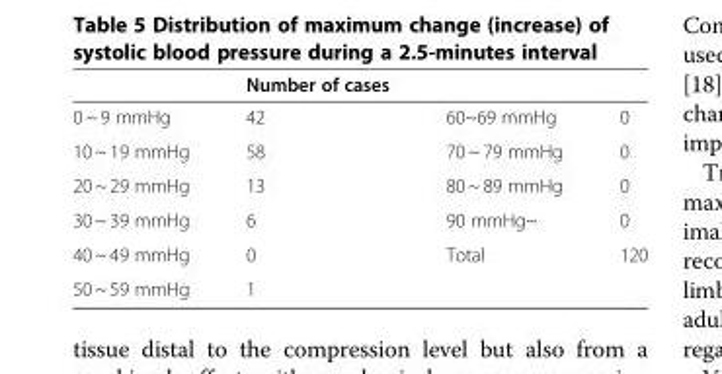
<table><thead><tr><td></td><td>Number of cases</td><td></td><td></td></tr></thead><tbody><tr><td>0 ~ 9 mmHg</td><td>42</td><td>60~69 mmHg</td><td>0</td></tr><tr><td>10 ~ 19 mmHg</td><td>58</td><td>70 ~ 79 mmHg</td><td>0</td></tr><tr><td>20 ~ 29 mmHg</td><td>13</td><td>80 ~ 89 mmHg</td><td>0</td></tr><tr><td>30 ~ 39 mmHg</td><td>6</td><td>90 mmHg~</td><td>0</td></tr><tr><td>40 ~ 49 mmHg</td><td>0</td><td>Total</td><td>120</td></tr><tr><td>50 ~ 59 mmHg</td><td>1</td><td></td><td></td></tr></tbody></table>